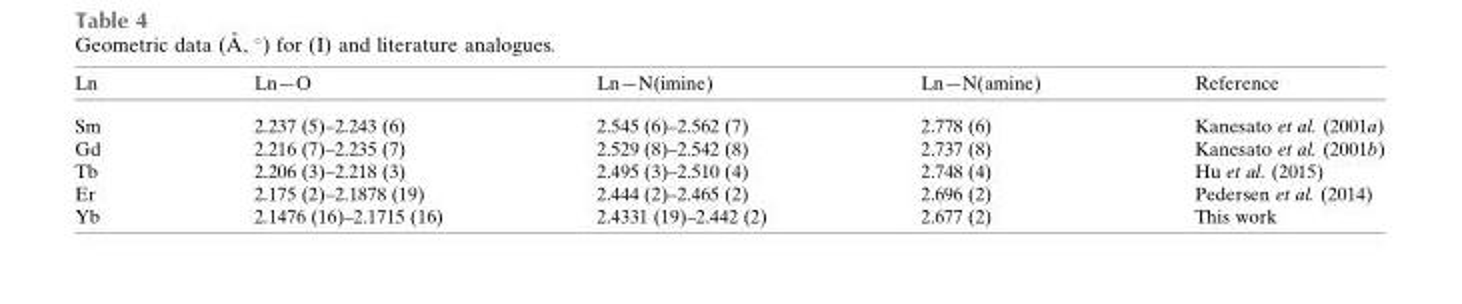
<table><thead><tr><td>Ln</td><td>Ln—O</td><td>Ln—N(imine)</td><td>Ln—N(amine)</td><td>Reference</td></tr></thead><tbody><tr><td>Sm</td><td>2.237 (5)–2.243 (6)</td><td>2.545 (6)–2.562 (7)</td><td>2.778 (6)</td><td>Kanesato et al. (2001a)</td></tr><tr><td>Gd</td><td>2.216 (7)–2.235 (7)</td><td>2.529 (8)–2.542 (8)</td><td>2.737 (8)</td><td>Kanesato et al. (2001b)</td></tr><tr><td>Tb</td><td>2.206 (3)–2.218 (3)</td><td>2.495 (3)–2.510 (4)</td><td>2.748 (4)</td><td>Hu et al. (2015)</td></tr><tr><td>Er</td><td>2.175 (2)–2.1878 (19)</td><td>2.444 (2)–2.465 (2)</td><td>2.696 (2)</td><td>Pedersen et al. (2014)</td></tr><tr><td>Yb</td><td>2.1476 (16)–2.1715 (16)</td><td>2.4331 (19)–2.442 (2)</td><td>2.677 (2)</td><td>This work</td></tr></tbody></table>